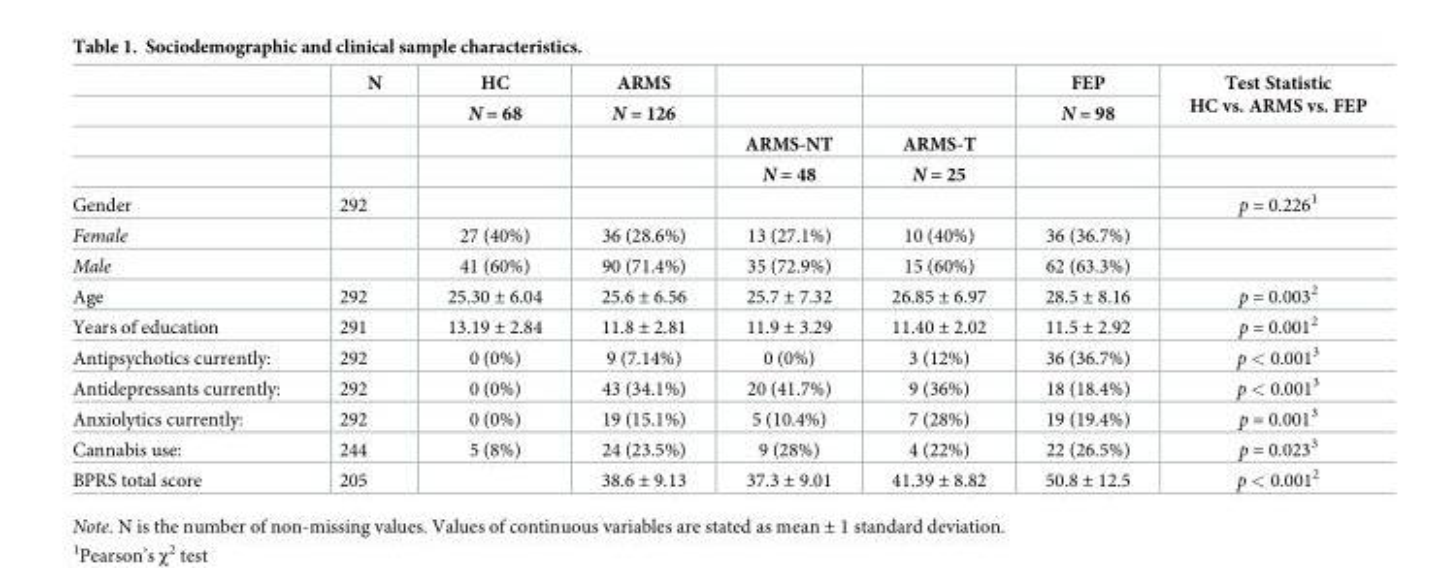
<table><thead><tr><td rowspan="4"></td><td rowspan="4">N</td><td rowspan="4">HC N = 68</td><td rowspan="4">ARMS N = 126</td><td rowspan="4">ARMS-NT N = 48</td><td rowspan="4">ARMS-T N = 25</td><td rowspan="4">FEP N = 98</td><td rowspan="4">Test Statistic HC vs. ARMS vs. FEP</td></tr><tr></tr><tr></tr><tr></tr></thead><tbody><tr><td>Gender</td><td>292</td><td></td><td></td><td></td><td></td><td></td><td>p = 0.226<sup>1</sup></td></tr><tr><td>Female</td><td></td><td>27 (40%)</td><td>36 (28.6%)</td><td>13 (27.1%)</td><td>10 (40%)</td><td>36 (36.7%)</td><td></td></tr><tr><td>Male</td><td></td><td>41 (60%)</td><td>90 (71.4%)</td><td>35 (72.9%)</td><td>15 (60%)</td><td>62 (63.3%)</td><td></td></tr><tr><td>Age</td><td>292</td><td>25.30 ± 6.04</td><td>25.6 ± 6.56</td><td>25.7 ± 7.32</td><td>26.85 ± 6.97</td><td>28.5 ± 8.16</td><td>p = 0.003<sup>2</sup></td></tr><tr><td>Years of education</td><td>291</td><td>13.19 ± 2.84</td><td>11.8 ± 2.81</td><td>11.9 ± 3.29</td><td>11.40 ± 2.02</td><td>11.5 ± 2.92</td><td>p = 0.001<sup>2</sup></td></tr><tr><td>Antipsychotics currently:</td><td>292</td><td>0 (0%)</td><td>9 (7.14%)</td><td>0 (0%)</td><td>3 (12%)</td><td>36 (36.7%)</td><td>p &lt; 0.001<sup>3</sup></td></tr><tr><td>Antidepressants currently:</td><td>292</td><td>0 (0%)</td><td>43 (34.1%)</td><td>20 (41.7%)</td><td>9 (36%)</td><td>18 (18.4%)</td><td>p &lt; 0.001<sup>3</sup></td></tr><tr><td>Anxiolytics currently:</td><td>292</td><td>0 (0%)</td><td>19 (15.1%)</td><td>5 (10.4%)</td><td>7 (28%)</td><td>19 (19.4%)</td><td>p = 0.001<sup>3</sup></td></tr><tr><td>Cannabis use:</td><td>244</td><td>5 (8%)</td><td>24 (23.5%)</td><td>9 (28%)</td><td>4 (22%)</td><td>22 (26.5%)</td><td>p = 0.023<sup>3</sup></td></tr><tr><td>BPRS total score</td><td>205</td><td></td><td>38.6 ± 9.13</td><td>37.3 ± 9.01</td><td>41.39 ± 8.82</td><td>50.8 ± 12.5</td><td>p &lt; 0.001<sup>2</sup></td></tr></tbody></table>